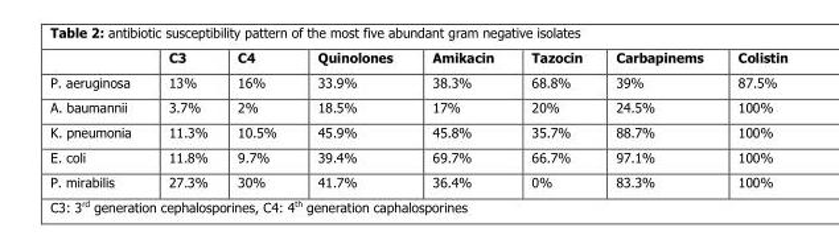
<table><thead><tr><td></td><td>C3</td><td>C4</td><td>Quinolones</td><td>Amikacin</td><td>Tazocin</td><td>Carbapinems</td><td>Colistin</td></tr></thead><tbody><tr><td>P. aeruginosa</td><td>13%</td><td>16%</td><td>33.9%</td><td>38.3%</td><td>68.8%</td><td>39%</td><td>87.5%</td></tr><tr><td>A. baumannii</td><td>3.7%</td><td>2%</td><td>18.5%</td><td>17%</td><td>20%</td><td>24.5%</td><td>100%</td></tr><tr><td>K. pneumonia</td><td>11.3%</td><td>10.5%</td><td>45.9%</td><td>45.8%</td><td>35.7%</td><td>88.7%</td><td>100%</td></tr><tr><td>E. coli</td><td>11.8%</td><td>9.7%</td><td>39.4%</td><td>69.7%</td><td>66.7%</td><td>97.1%</td><td>100%</td></tr><tr><td>P. mirabilis</td><td>27.3%</td><td>30%</td><td>41.7%</td><td>36.4%</td><td>0%</td><td>83.3%</td><td>100%</td></tr></tbody></table>